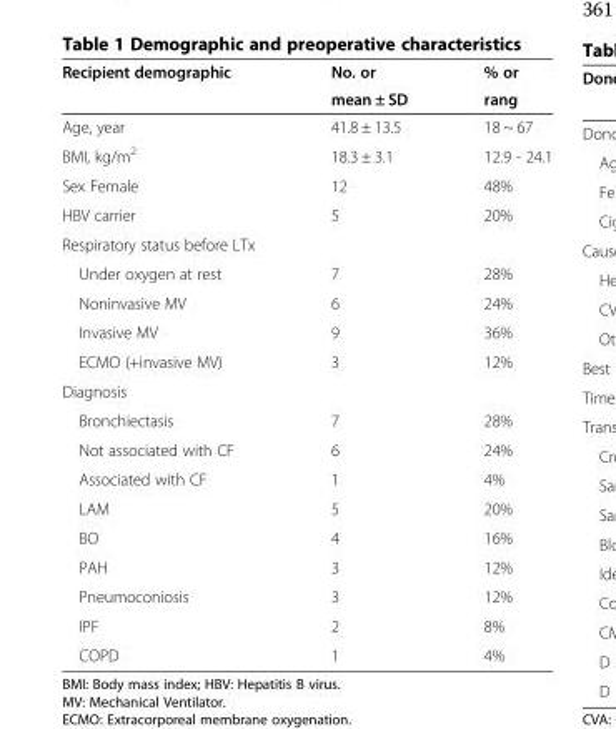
<table><thead><tr><td rowspan="2">Recipient demographic</td><td rowspan="2">No. or mean ± SD</td><td rowspan="2">% or rang</td></tr><tr></tr></thead><tbody><tr><td>Age, year</td><td>41.8 ± 13.5</td><td>18 ~ 67</td></tr><tr><td>BMI, kg/m<sup>2</sup></td><td>18.3 ± 3.1</td><td>12.9 - 24.1</td></tr><tr><td>Sex Female</td><td>12</td><td>48%</td></tr><tr><td>HBV carrier</td><td>5</td><td>20%</td></tr><tr><td colspan="3">Respiratory status before LTx</td></tr><tr><td>Under oxygen at rest</td><td>7</td><td>28%</td></tr><tr><td>Noninvasive MV</td><td>6</td><td>24%</td></tr><tr><td>Invasive MV</td><td>9</td><td>36%</td></tr><tr><td>ECMO (+invasive MV)</td><td>3</td><td>12%</td></tr><tr><td colspan="3">Diagnosis</td></tr><tr><td>Bronchiectasis</td><td>7</td><td>28%</td></tr><tr><td>Not associated with CF</td><td>6</td><td>24%</td></tr><tr><td>Associated with CF</td><td>1</td><td>4%</td></tr><tr><td>LAM</td><td>5</td><td>20%</td></tr><tr><td>BO</td><td>4</td><td>16%</td></tr><tr><td>PAH</td><td>3</td><td>12%</td></tr><tr><td>Pneumoconiosis</td><td>3</td><td>12%</td></tr><tr><td>IPF</td><td>2</td><td>8%</td></tr><tr><td>COPD</td><td>1</td><td>4%</td></tr></tbody></table>